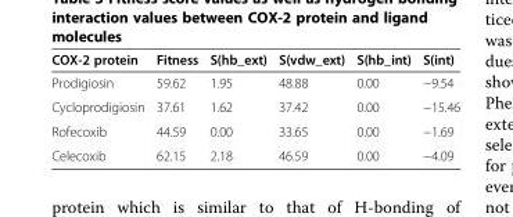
<table><thead><tr><td>COX-2 protein</td><td>Fitness</td><td>S(hb_ext)</td><td>S(vdw_ext)</td><td>S(hb_int)</td><td>S(int)</td></tr></thead><tbody><tr><td>Prodigiosin</td><td>59.62</td><td>1.95</td><td>48.88</td><td>0.00</td><td>−9.54</td></tr><tr><td>Cycloprodigiosin</td><td>37.61</td><td>1.62</td><td>37.42</td><td>0.00</td><td>−15.46</td></tr><tr><td>Rofecoxib</td><td>44.59</td><td>0.00</td><td>33.65</td><td>0.00</td><td>−1.69</td></tr><tr><td>Celecoxib</td><td>62.15</td><td>2.18</td><td>46.59</td><td>0.00</td><td>−4.09</td></tr></tbody></table>